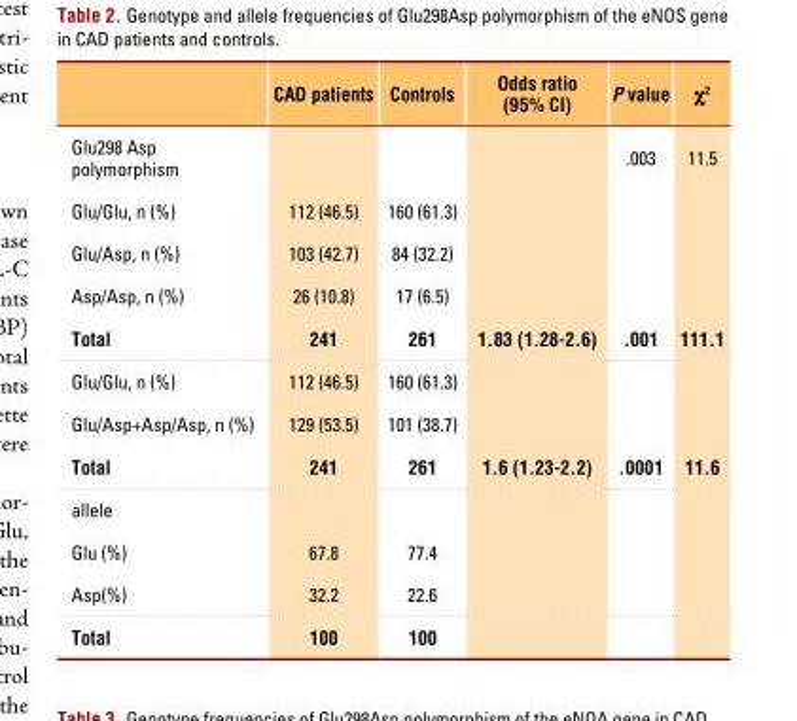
<table><thead><tr><td></td><td>CAD patients</td><td>Controls</td><td>Odds ratio (95% CI)</td><td>P value</td><td>χ<sup>2</sup></td></tr></thead><tbody><tr><td>Glu298 Asp polymorphism</td><td></td><td></td><td></td><td>.003</td><td>11.5</td></tr><tr><td>Glu/Glu, n (%)</td><td>112 (46.5)</td><td>160 (61.3)</td><td></td><td></td><td></td></tr><tr><td>Glu/Asp, n (%)</td><td>103 (42.7)</td><td>84 (32.2)</td><td></td><td></td><td></td></tr><tr><td>Asp/Asp, n (%)</td><td>26 (10.8)</td><td>17 (6.5)</td><td></td><td></td><td></td></tr><tr><td>Total</td><td>241</td><td>261</td><td>1.83 (1.28-2.6)</td><td>.001</td><td>111.1</td></tr><tr><td>Glu/Glu, n (%)</td><td>112 (46.5)</td><td>160 (61.3)</td><td></td><td></td><td></td></tr><tr><td>Glu/Asp+Asp/Asp, n (%)</td><td>129 (53.5)</td><td>101 (38.7)</td><td></td><td></td><td></td></tr><tr><td>Total</td><td>241</td><td>261</td><td>1.6 (1.23-2.2)</td><td>.0001</td><td>11.6</td></tr><tr><td colspan="6">allele</td></tr><tr><td>Glu (%)</td><td>67.8</td><td>77.4</td><td></td><td></td><td></td></tr><tr><td>Asp(%)</td><td>32.2</td><td>22.6</td><td></td><td></td><td></td></tr><tr><td>Total</td><td>100</td><td>100</td><td></td><td></td><td></td></tr></tbody></table>